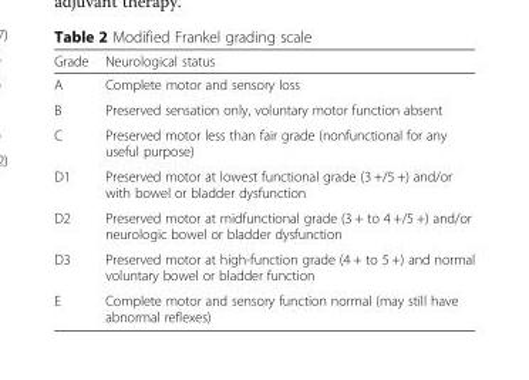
<table><thead><tr><td>Grade</td><td>Neurological status</td></tr></thead><tbody><tr><td>A</td><td>Complete motor and sensory loss</td></tr><tr><td>B</td><td>Preserved sensation only, voluntary motor function absent</td></tr><tr><td>C</td><td>Preserved motor less than fair grade (nonfunctional for any useful purpose)</td></tr><tr><td>D1</td><td>Preserved motor at lowest functional grade (3 +/5 +) and/or with bowel or bladder dysfunction</td></tr><tr><td>D2</td><td>Preserved motor at midfunctional grade (3 + to 4 +/5 +) and/or neurologic bowel or bladder dysfunction</td></tr><tr><td>D3</td><td>Preserved motor at high-function grade (4 + to 5 +) and normal voluntary bowel or bladder function</td></tr><tr><td>E</td><td>Complete motor and sensory function normal (may still have abnormal reflexes)</td></tr></tbody></table>